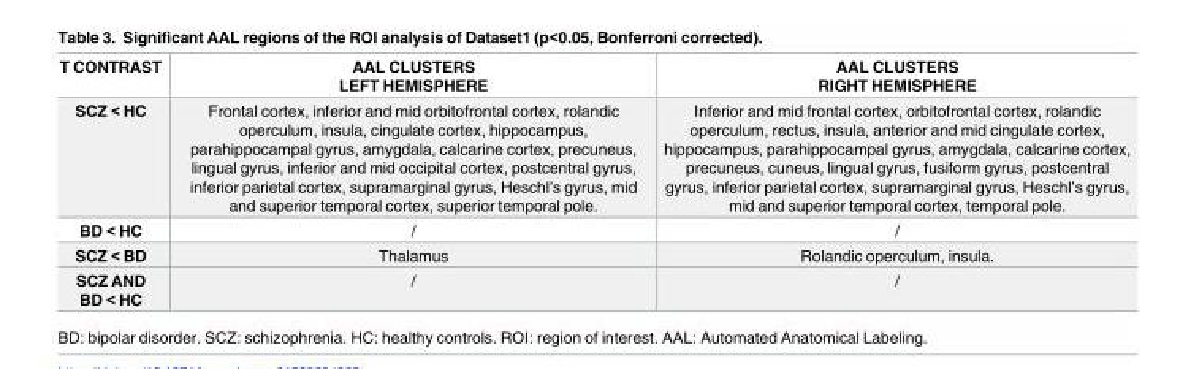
<table><thead><tr><td>T CONTRAST</td><td>AAL CLUSTERS LEFT HEMISPHERE</td><td>AAL CLUSTERS RIGHT HEMISPHERE</td></tr></thead><tbody><tr><td>SCZ &lt; HC</td><td>Frontal cortex, inferior and mid orbitofrontal cortex, rolandic operculum, insula, cingulate cortex, hippocampus, parahippocampal gyrus, amygdala, calcarine cortex, precuneus, lingual gyrus, inferior and mid occipital cortex, postcentral gyrus, inferior parietal cortex, supramarginal gyrus, Heschl’s gyrus, mid and superior temporal cortex, superior temporal pole.</td><td>Inferior and mid frontal cortex, orbitofrontal cortex, rolandic operculum, rectus, insula, anterior and mid cingulate cortex, hippocampus, parahippocampal gyrus, amygdala, calcarine cortex, precuneus, cuneus, lingual gyrus, fusiform gyrus, postcentral gyrus, inferior parietal cortex, supramarginal gyrus, Heschl’s gyrus, mid and superior temporal cortex, temporal pole.</td></tr><tr><td>BD &lt; HC</td><td>/</td><td>/</td></tr><tr><td>SCZ &lt; BD</td><td>Thalamus</td><td>Rolandic operculum, insula.</td></tr><tr><td>SCZ AND BD &lt; HC</td><td>/</td><td>/</td></tr></tbody></table>